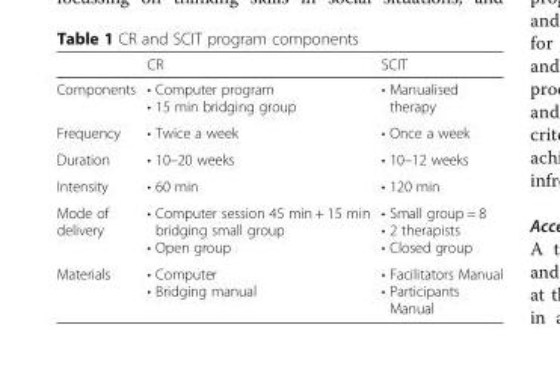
<table><thead><tr><td></td><td>CR</td><td>SCIT</td></tr></thead><tbody><tr><td>Components</td><td>• Computer program • 15 min bridging group</td><td>• Manualised therapy</td></tr><tr><td>Frequency</td><td>• Twice a week</td><td>• Once a week</td></tr><tr><td>Duration</td><td>• 10–20 weeks</td><td>• 10–12 weeks</td></tr><tr><td>Intensity</td><td>• 60 min</td><td>• 120 min</td></tr><tr><td>Mode of delivery</td><td>• Computer session 45 min + 15 min bridging small group • Open group</td><td>• Small group = 8 • 2 therapists • Closed group</td></tr><tr><td>Materials</td><td>• Computer • Bridging manual</td><td>• Facilitators Manual • Participants Manual</td></tr></tbody></table>